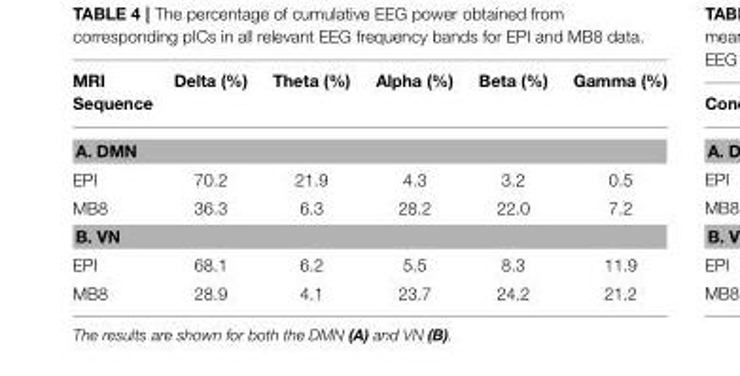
<table><thead><tr><td>MRI Sequence</td><td>Delta (%)</td><td>Theta (%)</td><td>Alpha (%)</td><td>Beta (%)</td><td>Gamma (%)</td></tr></thead><tbody><tr><td colspan="6">A. DMN</td></tr><tr><td>EPI</td><td>70.2</td><td>21.9</td><td>4.3</td><td>3.2</td><td>0.5</td></tr><tr><td>MB8</td><td>36.3</td><td>6.3</td><td>28.2</td><td>22.0</td><td>7.2</td></tr><tr><td colspan="6">B. VN</td></tr><tr><td>EPI</td><td>68.1</td><td>6.2</td><td>5.5</td><td>8.3</td><td>11.9</td></tr><tr><td>MB8</td><td>28.9</td><td>4.1</td><td>23.7</td><td>24.2</td><td>21.2</td></tr></tbody></table>